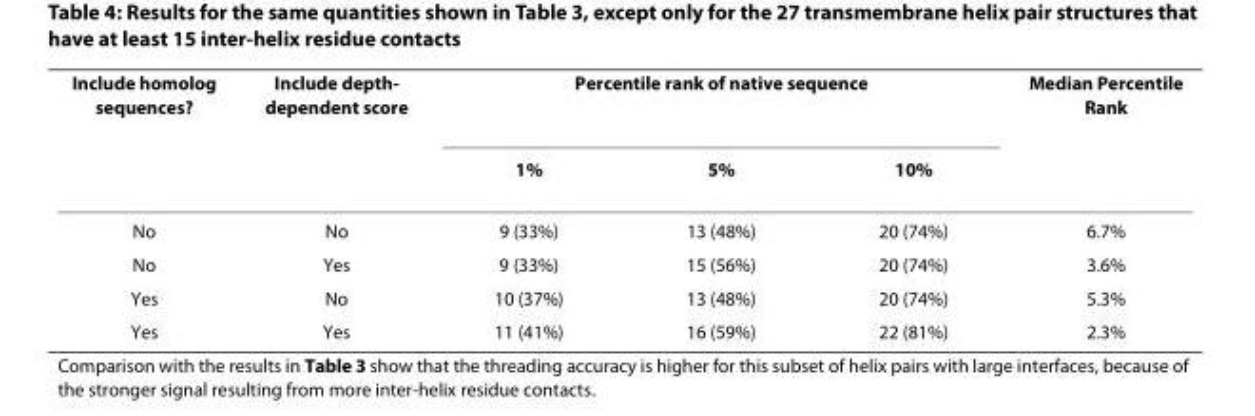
<table><thead><tr><td rowspan="2">Include homolog sequences?</td><td rowspan="2">Include depth- dependent score</td><td colspan="3">Percentile rank of native sequence</td><td rowspan="2">Median Percentile Rank</td></tr><tr><td>1%</td><td>5%</td><td>10%</td></tr></thead><tbody><tr><td>No</td><td>No</td><td>9 (33%)</td><td>13 (48%)</td><td>20 (74%)</td><td>6.7%</td></tr><tr><td>No</td><td>Yes</td><td>9 (33%)</td><td>15 (56%)</td><td>20 (74%)</td><td>3.6%</td></tr><tr><td>Yes</td><td>No</td><td>10 (37%)</td><td>13 (48%)</td><td>20 (74%)</td><td>5.3%</td></tr><tr><td>Yes</td><td>Yes</td><td>11 (41%)</td><td>16 (59%)</td><td>22 (81%)</td><td>2.3%</td></tr></tbody></table>